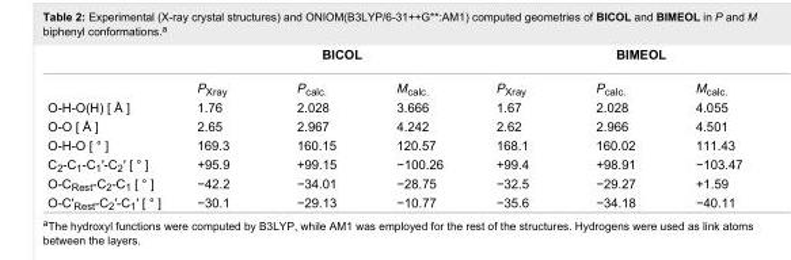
<table><thead><tr><td rowspan="2"></td><td colspan="3">BICOL</td><td colspan="3">BIMEOL</td></tr><tr><td>P<sub>Xray</sub></td><td>P<sub>calc.</sub></td><td>M<sub>calc.</sub></td><td>P<sub>Xray</sub></td><td>P<sub>calc.</sub></td><td>M<sub>calc.</sub></td></tr></thead><tbody><tr><td>O-H-O(H) [ Å ]</td><td>1.76</td><td>2.028</td><td>3.666</td><td>1.67</td><td>2.028</td><td>4.055</td></tr><tr><td>O-O [ Å ]</td><td>2.65</td><td>2.967</td><td>4.242</td><td>2.62</td><td>2.966</td><td>4.501</td></tr><tr><td>O-H-O [ ° ]</td><td>169.3</td><td>160.15</td><td>120.57</td><td>168.1</td><td>160.02</td><td>111.43</td></tr><tr><td>C<sub>2</sub>-C<sub>1</sub>-C<sub>1</sub>′-C<sub>2</sub>′ [ ° ]</td><td>+95.9</td><td>+99.15</td><td>−100.26</td><td>+99.4</td><td>+98.91</td><td>−103.47</td></tr><tr><td>O-C<sub>Rest</sub>-C<sub>2</sub>-C<sub>1</sub> [ ° ]</td><td>−42.2</td><td>−34.01</td><td>−28.75</td><td>−32.5</td><td>−29.27</td><td>+1.59</td></tr><tr><td>O-C&#x27;<sub>Rest</sub>-C<sub>2</sub>′-C<sub>1</sub>′ [ ° ]</td><td>−30.1</td><td>−29.13</td><td>−10.77</td><td>−35.6</td><td>−34.18</td><td>−40.11</td></tr></tbody></table>